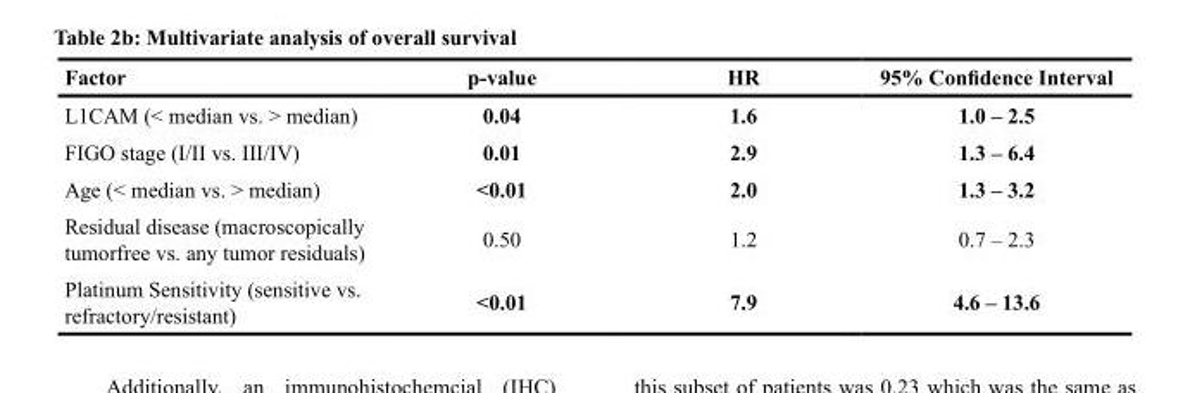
<table><thead><tr><td>Factor</td><td>p-value</td><td>HR</td><td>95% Confidence Interval</td></tr></thead><tbody><tr><td>L1CAM (&lt; median vs. &gt; median)</td><td>0.04</td><td>1.6</td><td>1.0 – 2.5</td></tr><tr><td>FIGO stage (I/II vs. III/IV)</td><td>0.01</td><td>2.9</td><td>1.3 – 6.4</td></tr><tr><td>Age (&lt; median vs. &gt; median)</td><td>&lt;0.01</td><td>2.0</td><td>1.3 – 3.2</td></tr><tr><td>Residual disease (macroscopically tumorfree vs. any tumor residuals)</td><td>0.50</td><td>1.2</td><td>0.7 – 2.3</td></tr><tr><td>Platinum Sensitivity (sensitive vs. refractory/resistant)</td><td>&lt;0.01</td><td>7.9</td><td>4.6 – 13.6</td></tr></tbody></table>